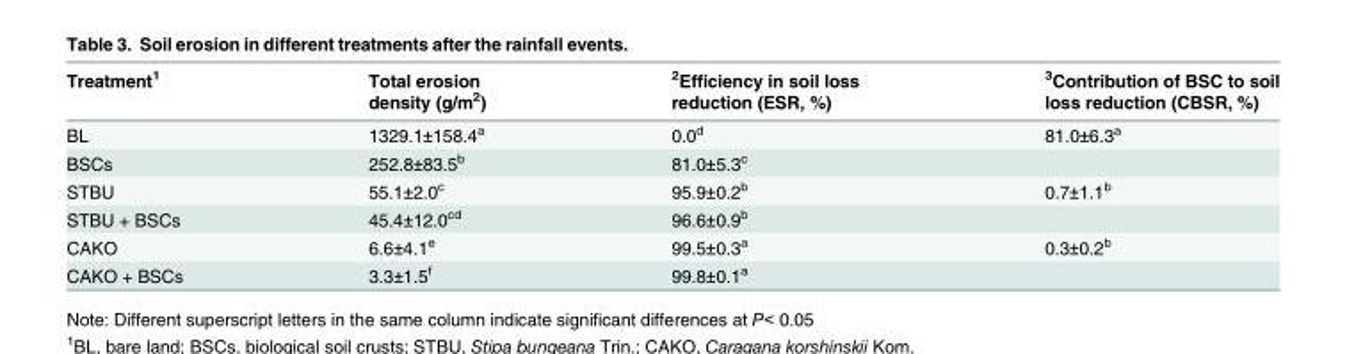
<table><thead><tr><td>Treatment<sup>1</sup></td><td>Total erosion density (g/m<sup>2</sup>)</td><td><sup>2</sup>Efficiency in soil loss reduction (ESR, %)</td><td><sup>3</sup>Contribution of BSC to soil loss reduction (CBSR, %)</td></tr></thead><tbody><tr><td>BL</td><td>1329.1±158.4<sup>a</sup></td><td>0.0<sup>d</sup></td><td>81.0±6.3<sup>a</sup></td></tr><tr><td>BSCs</td><td>252.8±83.5<sup>b</sup></td><td>81.0±5.3<sup>c</sup></td><td></td></tr><tr><td>STBU</td><td>55.1±2.0<sup>c</sup></td><td>95.9±0.2<sup>b</sup></td><td>0.7±1.1<sup>b</sup></td></tr><tr><td>STBU + BSCs</td><td>45.4±12.0<sup>cd</sup></td><td>96.6±0.9<sup>b</sup></td><td></td></tr><tr><td>CAKO</td><td>6.6±4.1<sup>e</sup></td><td>99.5±0.3<sup>a</sup></td><td>0.3±0.2<sup>b</sup></td></tr><tr><td>CAKO + BSCs</td><td>3.3±1.5<sup>f</sup></td><td>99.8±0.1<sup>a</sup></td><td></td></tr></tbody></table>